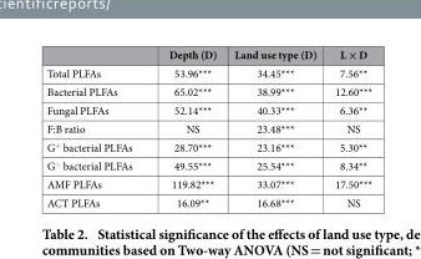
<table><thead><tr><td></td><td>Depth (D)</td><td>Land use type (D)</td><td>L × D</td></tr></thead><tbody><tr><td>Total PLFAs</td><td>53.96***</td><td>34.45***</td><td>7.56**</td></tr><tr><td>Bacterial PLFAs</td><td>65.02***</td><td>38.99***</td><td>12.60***</td></tr><tr><td>Fungal PLFAs</td><td>52.14***</td><td>40.33***</td><td>6.36**</td></tr><tr><td>F:B ratio</td><td>NS</td><td>23.48***</td><td>NS</td></tr><tr><td>G<sup>+</sup> bacterial PLFAs</td><td>28.70***</td><td>23.16***</td><td>5.30**</td></tr><tr><td>G<sup>−</sup> bacterial PLFAs</td><td>49.55***</td><td>25.54***</td><td>8.34**</td></tr><tr><td>AMF PLFAs</td><td>119.82***</td><td>33.07***</td><td>17.50***</td></tr><tr><td>ACT PLFAs</td><td>16.09**</td><td>16.68***</td><td>NS</td></tr></tbody></table>